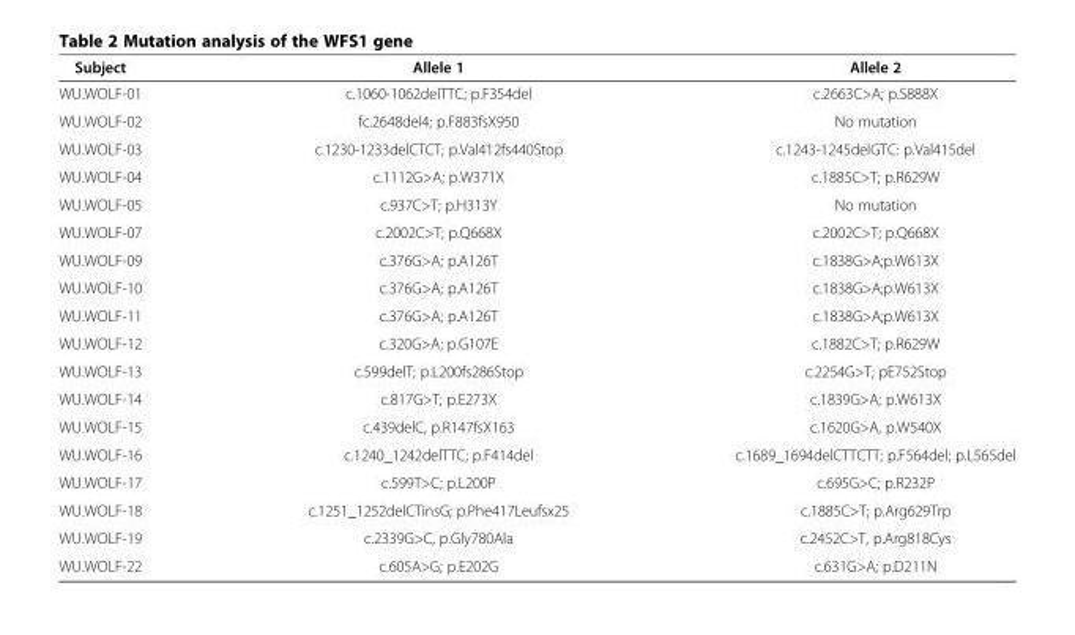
<table><thead><tr><td>Subject</td><td>Allele 1</td><td>Allele 2</td></tr></thead><tbody><tr><td>WU.WOLF-01</td><td>c.1060-1062delTTC; p.F354del</td><td>c.2663C&gt;A; p.S888X</td></tr><tr><td>WU.WOLF-02</td><td>fc.2648del4; p.F883fsX950</td><td>No mutation</td></tr><tr><td>WU.WOLF-03</td><td>c.1230-1233delCTCT; p.Val412fs440Stop</td><td>c.1243-1245delGTC: p.Val415del</td></tr><tr><td>WU.WOLF-04</td><td>c.1112G&gt;A; p.W371X</td><td>c.1885C&gt;T; p.R629W</td></tr><tr><td>WU.WOLF-05</td><td>c.937C&gt;T; p.H313Y</td><td>No mutation</td></tr><tr><td>WU.WOLF-07</td><td>c.2002C&gt;T; p.Q668X</td><td>c.2002C&gt;T; p.Q668X</td></tr><tr><td>WU.WOLF-09</td><td>c.376G&gt;A; p.A126T</td><td>c.1838G&gt;A;p.W613X</td></tr><tr><td>WU.WOLF-10</td><td>c.376G&gt;A; p.A126T</td><td>c.1838G&gt;A;p.W613X</td></tr><tr><td>WU.WOLF-11</td><td>c.376G&gt;A; p.A126T</td><td>c.1838G&gt;A;p.W613X</td></tr><tr><td>WU.WOLF-12</td><td>c.320G&gt;A; p.G107E</td><td>c.1882C&gt;T; p.R629W</td></tr><tr><td>WU.WOLF-13</td><td>c.599delT; p.L200fs286Stop</td><td>c.2254G&gt;T; pE752Stop</td></tr><tr><td>WU.WOLF-14</td><td>c.817G&gt;T; p.E273X</td><td>c.1839G&gt;A; p.W613X</td></tr><tr><td>WU.WOLF-15</td><td>c.439delC, p.R147fsX163</td><td>c.1620G&gt;A, p.W540X</td></tr><tr><td>WU.WOLF-16</td><td>c.1240_1242delTTC; p.F414del</td><td>c.1689_1694delCTTCTT; p.F564del; p.L565del</td></tr><tr><td>WU.WOLF-17</td><td>c.599T&gt;C; p.L200P</td><td>c.695G&gt;C; p.R232P</td></tr><tr><td>WU.WOLF-18</td><td>c.1251_1252delCTinsG; p.Phe417Leufsx25</td><td>c.1885C&gt;T; p.Arg629Trp</td></tr><tr><td>WU.WOLF-19</td><td>c.2339G&gt;C, p.Gly780Ala</td><td>c.2452C&gt;T, p.Arg818Cys</td></tr><tr><td>WU.WOLF-22</td><td>c.605A&gt;G; p.E202G</td><td>c.631G&gt;A; p.D211N</td></tr></tbody></table>